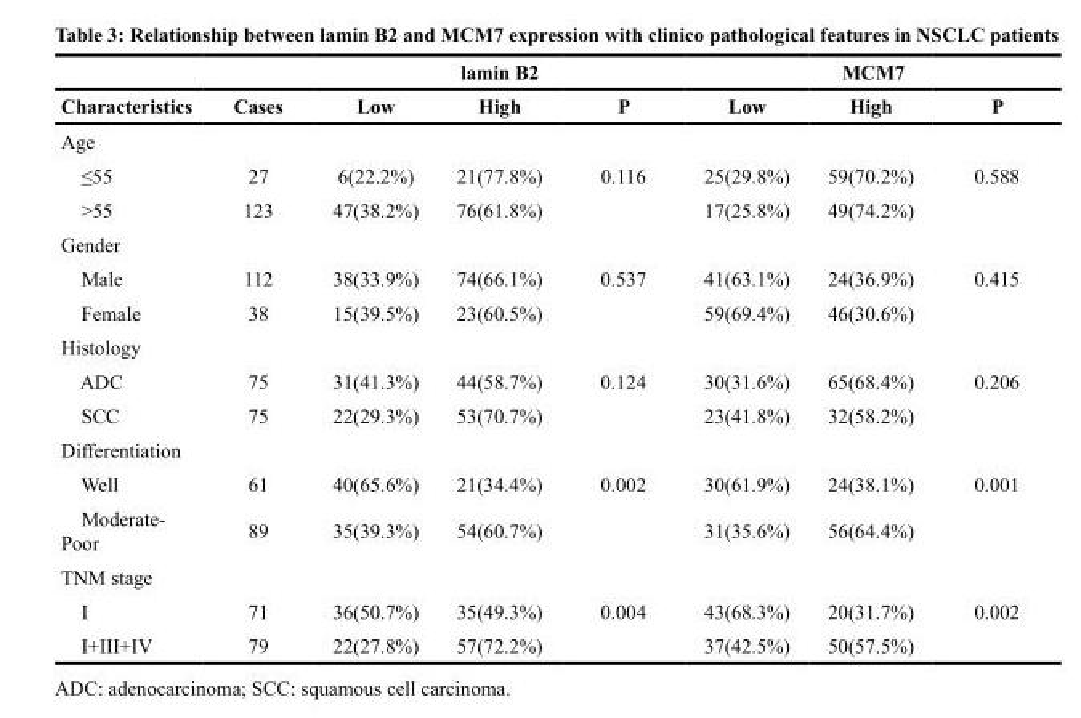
<table><thead><tr><td rowspan="2">Characteristics</td><td rowspan="2">Cases</td><td rowspan="2">Low</td><td rowspan="2">lamin B2 High</td><td rowspan="2">P</td><td rowspan="2">Low</td><td rowspan="2">MCM7 High</td><td rowspan="2">P</td></tr><tr></tr></thead><tbody><tr><td colspan="8">Age</td></tr><tr><td>≤55</td><td>27</td><td>6(22.2%)</td><td>21(77.8%)</td><td>0.116</td><td>25(29.8%)</td><td>59(70.2%)</td><td>0.588</td></tr><tr><td>&gt;55</td><td>123</td><td>47(38.2%)</td><td>76(61.8%)</td><td></td><td>17(25.8%)</td><td>49(74.2%)</td><td></td></tr><tr><td colspan="8">Gender</td></tr><tr><td>Male</td><td>112</td><td>38(33.9%)</td><td>74(66.1%)</td><td>0.537</td><td>41(63.1%)</td><td>24(36.9%)</td><td>0.415</td></tr><tr><td>Female</td><td>38</td><td>15(39.5%)</td><td>23(60.5%)</td><td></td><td>59(69.4%)</td><td>46(30.6%)</td><td></td></tr><tr><td colspan="8">Histology</td></tr><tr><td>ADC</td><td>75</td><td>31(41.3%)</td><td>44(58.7%)</td><td>0.124</td><td>30(31.6%)</td><td>65(68.4%)</td><td>0.206</td></tr><tr><td>SCC</td><td>75</td><td>22(29.3%)</td><td>53(70.7%)</td><td></td><td>23(41.8%)</td><td>32(58.2%)</td><td></td></tr><tr><td colspan="8">Differentiation</td></tr><tr><td>Well</td><td>61</td><td>40(65.6%)</td><td>21(34.4%)</td><td>0.002</td><td>30(61.9%)</td><td>24(38.1%)</td><td>0.001</td></tr><tr><td>Moderate- Poor</td><td>89</td><td>35(39.3%)</td><td>54(60.7%)</td><td></td><td>31(35.6%)</td><td>56(64.4%)</td><td></td></tr><tr><td colspan="8">TNM stage</td></tr><tr><td>I</td><td>71</td><td>36(50.7%)</td><td>35(49.3%)</td><td>0.004</td><td>43(68.3%)</td><td>20(31.7%)</td><td>0.002</td></tr><tr><td>I+III+IV</td><td>79</td><td>22(27.8%)</td><td>57(72.2%)</td><td></td><td>37(42.5%)</td><td>50(57.5%)</td><td></td></tr></tbody></table>